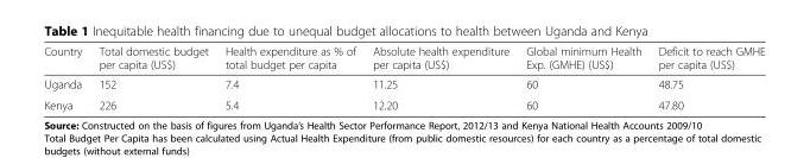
<table><thead><tr><td>Country</td><td>Total domestic budget per capita (US$)</td><td>Health expenditure as % of total budget per capita</td><td>Absolute health expenditure per capita (US$)</td><td>Global minimum Health Exp. (GMHE) (US$)</td><td>Deficit to reach GMHE per capita (US$)</td></tr></thead><tbody><tr><td>Uganda</td><td>152</td><td>7.4</td><td>11.25</td><td>60</td><td>48.75</td></tr><tr><td>Kenya</td><td>226</td><td>5.4</td><td>12.20</td><td>60</td><td>47.80</td></tr></tbody></table>